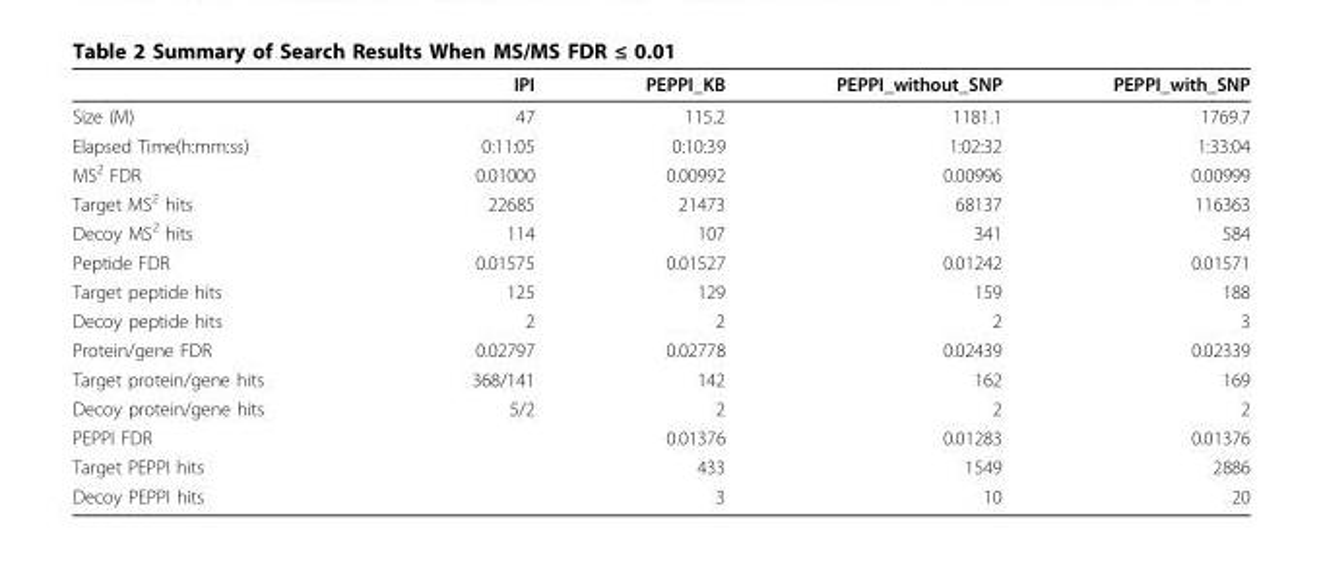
<table><thead><tr><td></td><td>IPI</td><td>PEPPI_KB</td><td>PEPPI_without_SNP</td><td>PEPPI_with_SNP</td></tr></thead><tbody><tr><td>Size (M)</td><td>47</td><td>115.2</td><td>1181.1</td><td>1769.7</td></tr><tr><td>Elapsed Time(h:mm:ss)</td><td>0:11:05</td><td>0:10:39</td><td>1:02:32</td><td>1:33:04</td></tr><tr><td>MS<sup>2</sup> FDR</td><td>0.01000</td><td>0.00992</td><td>0.00996</td><td>0.00999</td></tr><tr><td>Target MS<sup>2</sup> hits</td><td>22685</td><td>21473</td><td>68137</td><td>116363</td></tr><tr><td>Decoy MS<sup>2</sup> hits</td><td>114</td><td>107</td><td>341</td><td>584</td></tr><tr><td>Peptide FDR</td><td>0.01575</td><td>0.01527</td><td>0.01242</td><td>0.01571</td></tr><tr><td>Target peptide hits</td><td>125</td><td>129</td><td>159</td><td>188</td></tr><tr><td>Decoy peptide hits</td><td>2</td><td>2</td><td>2</td><td>3</td></tr><tr><td>Protein/gene FDR</td><td>0.02797</td><td>0.02778</td><td>0.02439</td><td>0.02339</td></tr><tr><td>Target protein/gene hits</td><td>368/141</td><td>142</td><td>162</td><td>169</td></tr><tr><td>Decoy protein/gene hits</td><td>5/2</td><td>2</td><td>2</td><td>2</td></tr><tr><td>PEPPI FDR</td><td></td><td>0.01376</td><td>0.01283</td><td>0.01376</td></tr><tr><td>Target PEPPI hits</td><td></td><td>433</td><td>1549</td><td>2886</td></tr><tr><td>Decoy PEPPI hits</td><td></td><td>3</td><td>10</td><td>20</td></tr></tbody></table>